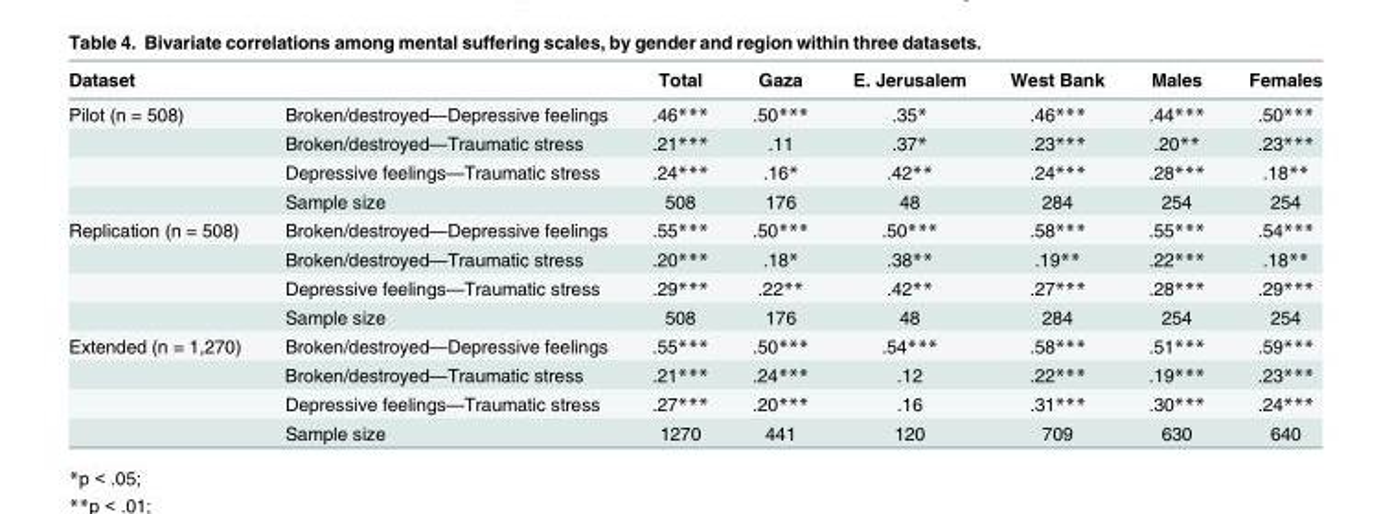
<table><thead><tr><td>Dataset</td><td></td><td>Total</td><td>Gaza</td><td>E. Jerusalem</td><td>West Bank</td><td>Males</td><td>Females</td></tr></thead><tbody><tr><td rowspan="4">Pilot (n = 508)</td><td>Broken/destroyed—Depressive feelings</td><td>.46***</td><td>.50***</td><td>.35*</td><td>.46***</td><td>.44***</td><td>.50***</td></tr><tr><td>Broken/destroyed—Traumatic stress</td><td>.21***</td><td>.11</td><td>.37*</td><td>.23***</td><td>.20**</td><td>.23***</td></tr><tr><td>Depressive feelings—Traumatic stress</td><td>.24***</td><td>.16*</td><td>.42**</td><td>.24***</td><td>.28***</td><td>.18**</td></tr><tr><td>Sample size</td><td>508</td><td>176</td><td>48</td><td>284</td><td>254</td><td>254</td></tr><tr><td rowspan="4">Replication (n = 508)</td><td>Broken/destroyed—Depressive feelings</td><td>.55***</td><td>.50***</td><td>.50***</td><td>.58***</td><td>.55***</td><td>.54***</td></tr><tr><td>Broken/destroyed—Traumatic stress</td><td>.20***</td><td>.18*</td><td>.38**</td><td>.19**</td><td>.22***</td><td>.18**</td></tr><tr><td>Depressive feelings—Traumatic stress</td><td>.29***</td><td>.22**</td><td>.42**</td><td>.27***</td><td>.28***</td><td>.29***</td></tr><tr><td>Sample size</td><td>508</td><td>176</td><td>48</td><td>284</td><td>254</td><td>254</td></tr><tr><td rowspan="4">Extended (n = 1,270)</td><td>Broken/destroyed—Depressive feelings</td><td>.55***</td><td>.50***</td><td>.54***</td><td>.58***</td><td>.51***</td><td>.59***</td></tr><tr><td>Broken/destroyed—Traumatic stress</td><td>.21***</td><td>.24***</td><td>.12</td><td>.22***</td><td>.19***</td><td>.23***</td></tr><tr><td>Depressive feelings—Traumatic stress</td><td>.27***</td><td>.20***</td><td>.16</td><td>.31***</td><td>.30***</td><td>.24***</td></tr><tr><td>Sample size</td><td>1270</td><td>441</td><td>120</td><td>709</td><td>630</td><td>640</td></tr></tbody></table>